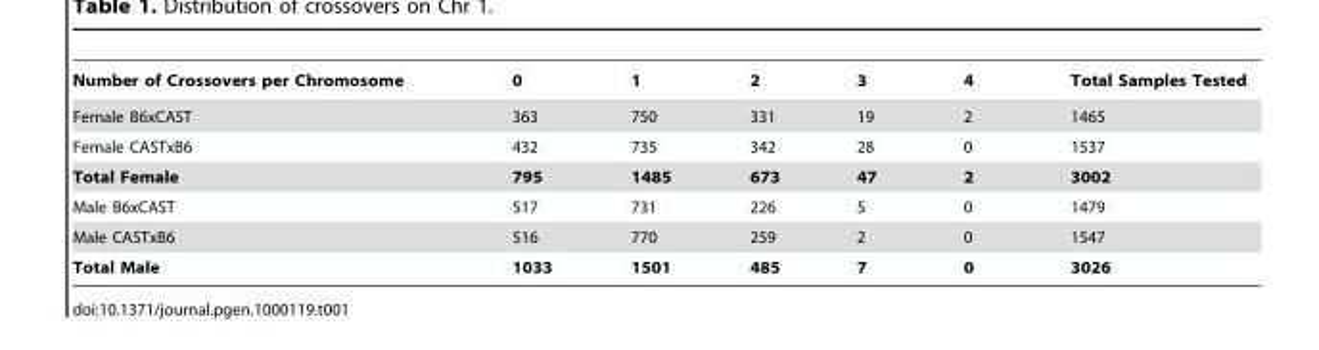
<table><thead><tr><td>Number of Crossovers per Chromosome</td><td>0</td><td>1</td><td>2</td><td>3</td><td>4</td><td>Total Samples Tested</td></tr></thead><tbody><tr><td>Female B6xCAST</td><td>363</td><td>750</td><td>331</td><td>19</td><td>2</td><td>1465</td></tr><tr><td>Female CASTxB6</td><td>432</td><td>735</td><td>342</td><td>28</td><td>0</td><td>1537</td></tr><tr><td>Total Female</td><td>795</td><td>1485</td><td>673</td><td>47</td><td>2</td><td>3002</td></tr><tr><td>Male B6xCAST</td><td>517</td><td>731</td><td>226</td><td>5</td><td>0</td><td>1479</td></tr><tr><td>Male CASTxB6</td><td>516</td><td>770</td><td>259</td><td>2</td><td>0</td><td>1547</td></tr><tr><td>Total Male</td><td>1033</td><td>1501</td><td>485</td><td>7</td><td>0</td><td>3026</td></tr></tbody></table>